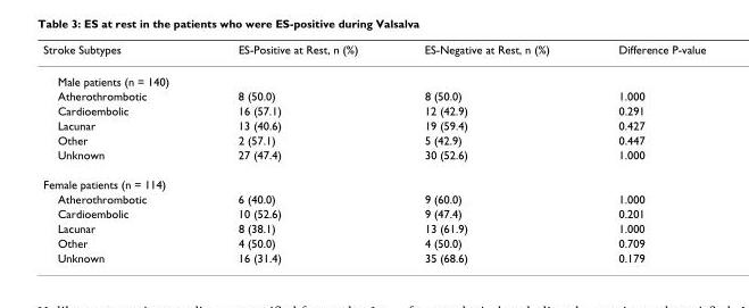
<table><thead><tr><td>Stroke Subtypes</td><td>ES-Positive at Rest, n (%)</td><td>ES-Negative at Rest, n (%)</td><td>Difference P-value</td></tr></thead><tbody><tr><td colspan="4">Male patients (n = 140)</td></tr><tr><td>Atherothrombotic</td><td>8 (50.0)</td><td>8 (50.0)</td><td>1.000</td></tr><tr><td>Cardioembolic</td><td>16 (57.1)</td><td>12 (42.9)</td><td>0.291</td></tr><tr><td>Lacunar</td><td>13 (40.6)</td><td>19 (59.4)</td><td>0.427</td></tr><tr><td>Other</td><td>2 (57.1)</td><td>5 (42.9)</td><td>0.447</td></tr><tr><td>Unknown</td><td>27 (47.4)</td><td>30 (52.6)</td><td>1.000</td></tr><tr><td colspan="4">Female patients (n = 114)</td></tr><tr><td>Atherothrombotic</td><td>6 (40.0)</td><td>9 (60.0)</td><td>1.000</td></tr><tr><td>Cardioembolic</td><td>10 (52.6)</td><td>9 (47.4)</td><td>0.201</td></tr><tr><td>Lacunar</td><td>8 (38.1)</td><td>13 (61.9)</td><td>1.000</td></tr><tr><td>Other</td><td>4 (50.0)</td><td>4 (50.0)</td><td>0.709</td></tr><tr><td>Unknown</td><td>16 (31.4)</td><td>35 (68.6)</td><td>0.179</td></tr></tbody></table>